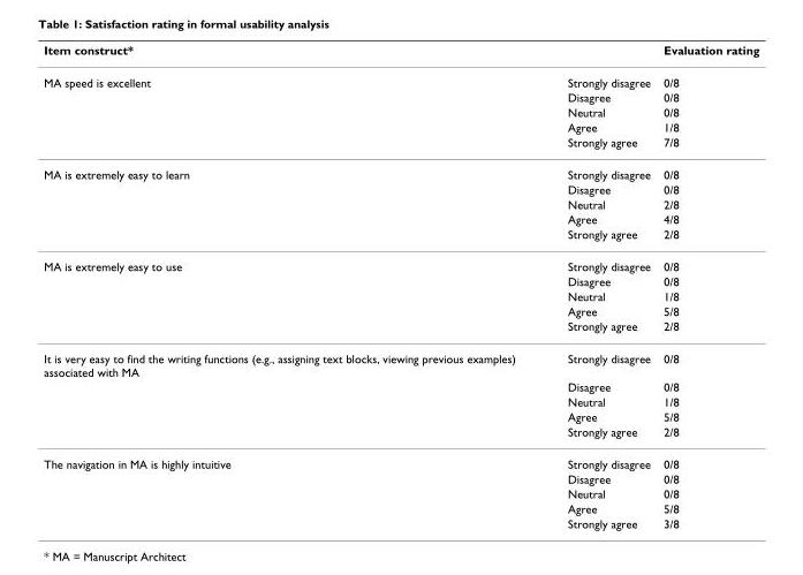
<table><thead><tr><td>Item construct*</td><td></td><td>Evaluation rating</td></tr></thead><tbody><tr><td rowspan="5">MA speed is excellent</td><td>Strongly disagree</td><td>0/8</td></tr><tr><td>Disagree</td><td>0/8</td></tr><tr><td>Neutral</td><td>0/8</td></tr><tr><td>Agree</td><td>1/8</td></tr><tr><td>Strongly agree</td><td>7/8</td></tr><tr><td rowspan="5">MA is extremely easy to learn</td><td>Strongly disagree</td><td>0/8</td></tr><tr><td>Disagree</td><td>0/8</td></tr><tr><td>Neutral</td><td>2/8</td></tr><tr><td>Agree</td><td>4/8</td></tr><tr><td>Strongly agree</td><td>2/8</td></tr><tr><td rowspan="5">MA is extremely easy to use</td><td>Strongly disagree</td><td>0/8</td></tr><tr><td>Disagree</td><td>0/8</td></tr><tr><td>Neutral</td><td>1/8</td></tr><tr><td>Agree</td><td>5/8</td></tr><tr><td>Strongly agree</td><td>2/8</td></tr><tr><td rowspan="5">It is very easy to find the writing functions (e.g., assigning text blocks, viewing previous examples) associated with MA</td><td>Strongly disagree</td><td>0/8</td></tr><tr><td>Disagree</td><td>0/8</td></tr><tr><td>Neutral</td><td>1/8</td></tr><tr><td>Agree</td><td>5/8</td></tr><tr><td>Strongly agree</td><td>2/8</td></tr><tr><td rowspan="5">The navigation in MA is highly intuitive</td><td>Strongly disagree</td><td>0/8</td></tr><tr><td>Disagree</td><td>0/8</td></tr><tr><td>Neutral</td><td>0/8</td></tr><tr><td>Agree</td><td>5/8</td></tr><tr><td>Strongly agree</td><td>3/8</td></tr></tbody></table>